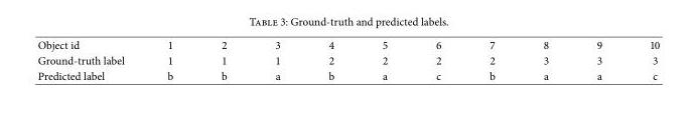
<table><tbody><tr><td>Object id</td><td>1</td><td>2</td><td>3</td><td>4</td><td>5</td><td>6</td><td>7</td><td>8</td><td>9</td><td>10</td></tr><tr><td>Ground-truth label</td><td>1</td><td>1</td><td>1</td><td>2</td><td>2</td><td>2</td><td>2</td><td>3</td><td>3</td><td>3</td></tr><tr><td>Predicted label</td><td>b</td><td>b</td><td>a</td><td>b</td><td>a</td><td>c</td><td>b</td><td>a</td><td>a</td><td>c</td></tr></tbody></table>